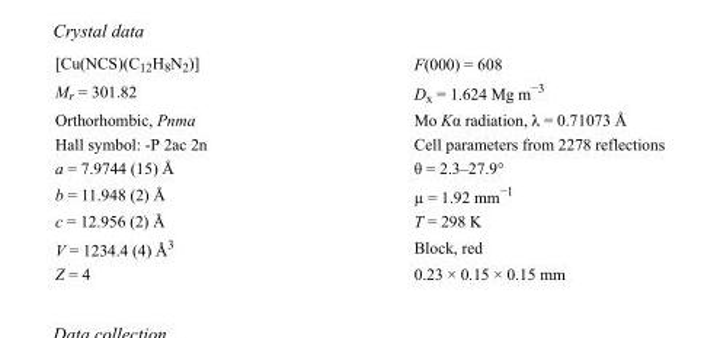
<table><tbody><tr><td>[Cu(NCS)(C<sub>12</sub>H<sub>8</sub>N<sub>2</sub>)]</td><td>F(000) = 608</td></tr><tr><td>M<sub>r</sub> = 301.82</td><td>D<sub>x</sub> = 1.624 Mg m<sup>−3</sup></td></tr><tr><td>Orthorhombic, Pnma</td><td>Mo Kα radiation, λ = 0.71073 Å</td></tr><tr><td>Hall symbol: -P 2ac 2n</td><td>Cell parameters from 2278 reflections</td></tr><tr><td>a = 7.9744 (15) Å</td><td>θ = 2.3–27.9°</td></tr><tr><td>b = 11.948 (2) Å</td><td>µ = 1.92 mm<sup>−1</sup></td></tr><tr><td>c = 12.956 (2) Å</td><td>T = 298 K</td></tr><tr><td>V = 1234.4 (4) Å<sup>3</sup></td><td>Block, red</td></tr><tr><td>Z = 4</td><td>0.23 × 0.15 × 0.15 mm</td></tr></tbody></table>